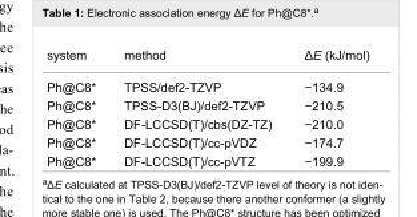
<table><tbody><tr><td>system</td><td>method</td><td>ΔE (kJ/mol)</td></tr><tr><td>Ph@C8*</td><td>TPSS/def2-TZVP</td><td>−134.9</td></tr><tr><td>Ph@C8*</td><td>TPSS-D3(BJ)/def2-TZVP</td><td>−210.5</td></tr><tr><td>Ph@C8*</td><td>DF-LCCSD(T)/cbs(DZ-TZ)</td><td>−210.0</td></tr><tr><td>Ph@C8*</td><td>DF-LCCSD(T)/cc-pVDZ</td><td>−174.7</td></tr><tr><td>Ph@C8*</td><td>DF-LCCSD(T)/cc-pVTZ</td><td>−199.9</td></tr></tbody></table>